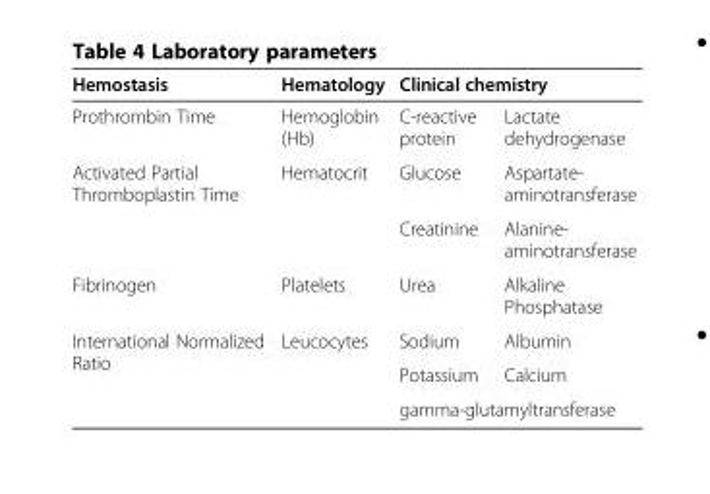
<table><thead><tr><td rowspan="2">Hemostasis Prothrombin Time</td><td rowspan="2">Hematology Hemoglobin (Hb)</td><td colspan="2">Clinical chemistry</td></tr><tr><td>C-reactive protein</td><td>Lactate dehydrogenase</td></tr></thead><tbody><tr><td rowspan="2">Activated Partial Thromboplastin Time</td><td rowspan="2">Hematocrit</td><td>Glucose</td><td>Aspartate- aminotransferase</td></tr><tr><td>Creatinine</td><td>Alanine- aminotransferase</td></tr><tr><td>Fibrinogen</td><td>Platelets</td><td>Urea</td><td>Alkaline Phosphatase</td></tr><tr><td rowspan="3">International Normalized Ratio</td><td rowspan="2">Leucocytes</td><td>Sodium</td><td>Albumin</td></tr><tr><td>Potassium</td><td>Calcium</td></tr><tr><td></td><td colspan="2">gamma-glutamyltransferase</td></tr></tbody></table>